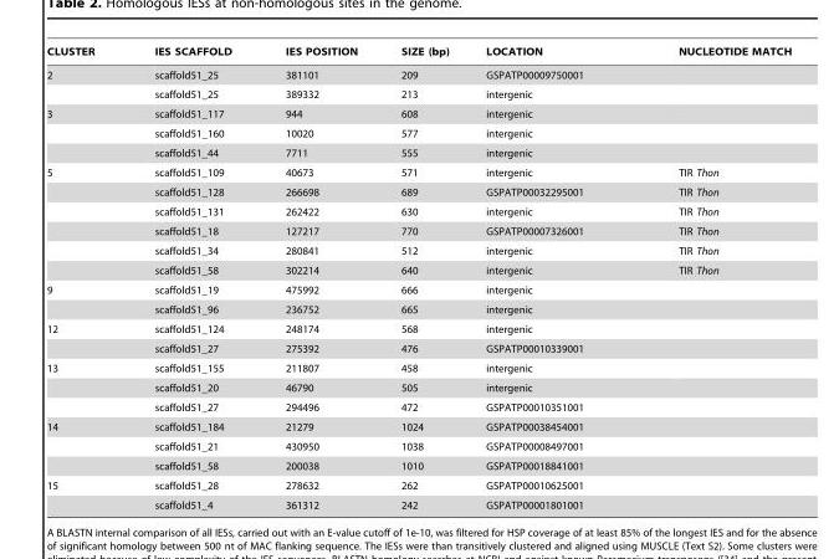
<table><thead><tr><td>CLUSTER</td><td>IES SCAFFOLD</td><td>IES POSITION</td><td>SIZE (bp)</td><td>LOCATION</td><td>NUCLEOTIDE MATCH</td></tr></thead><tbody><tr><td rowspan="2">2</td><td>scaffold51_25</td><td>381101</td><td>209</td><td>GSPATP00009750001</td><td></td></tr><tr><td>scaffold51_25</td><td>389332</td><td>213</td><td>intergenic</td><td></td></tr><tr><td rowspan="3">3</td><td>scaffold51_117</td><td>944</td><td>608</td><td>intergenic</td><td></td></tr><tr><td>scaffold51_160</td><td>10020</td><td>577</td><td>intergenic</td><td></td></tr><tr><td>scaffold51_44</td><td>7711</td><td>555</td><td>intergenic</td><td></td></tr><tr><td rowspan="6">5</td><td>scaffold51_109</td><td>40673</td><td>571</td><td>intergenic</td><td>TIR Thon</td></tr><tr><td>scaffold51_128</td><td>266698</td><td>689</td><td>GSPATP00032295001</td><td>TIR Thon</td></tr><tr><td>scaffold51_131</td><td>262422</td><td>630</td><td>intergenic</td><td>TIR Thon</td></tr><tr><td>scaffold51_18</td><td>127217</td><td>770</td><td>GSPATP00007326001</td><td>TIR Thon</td></tr><tr><td>scaffold51_34</td><td>280841</td><td>512</td><td>intergenic</td><td>TIR Thon</td></tr><tr><td>scaffold51_58</td><td>302214</td><td>640</td><td>intergenic</td><td>TIR Thon</td></tr><tr><td rowspan="2">9</td><td>scaffold51_19</td><td>475992</td><td>666</td><td>intergenic</td><td></td></tr><tr><td>scaffold51_96</td><td>236752</td><td>665</td><td>intergenic</td><td></td></tr><tr><td rowspan="2">12</td><td>scaffold51_124</td><td>248174</td><td>568</td><td>intergenic</td><td></td></tr><tr><td>scaffold51_27</td><td>275392</td><td>476</td><td>GSPATP00010339001</td><td></td></tr><tr><td rowspan="3">13</td><td>scaffold51_155</td><td>211807</td><td>458</td><td>intergenic</td><td></td></tr><tr><td>scaffold51_20</td><td>46790</td><td>505</td><td>intergenic</td><td></td></tr><tr><td>scaffold51_27</td><td>294496</td><td>472</td><td>GSPATP00010351001</td><td></td></tr><tr><td rowspan="3">14</td><td>scaffold51_184</td><td>21279</td><td>1024</td><td>GSPATP00038454001</td><td></td></tr><tr><td>scaffold51_21</td><td>430950</td><td>1038</td><td>GSPATP00008497001</td><td></td></tr><tr><td>scaffold51_58</td><td>200038</td><td>1010</td><td>GSPATP00018841001</td><td></td></tr><tr><td rowspan="2">15</td><td>scaffold51_28</td><td>278632</td><td>262</td><td>GSPATP00010625001</td><td></td></tr><tr><td>scaffold51_4</td><td>361312</td><td>242</td><td>GSPATP00001801001</td><td></td></tr></tbody></table>